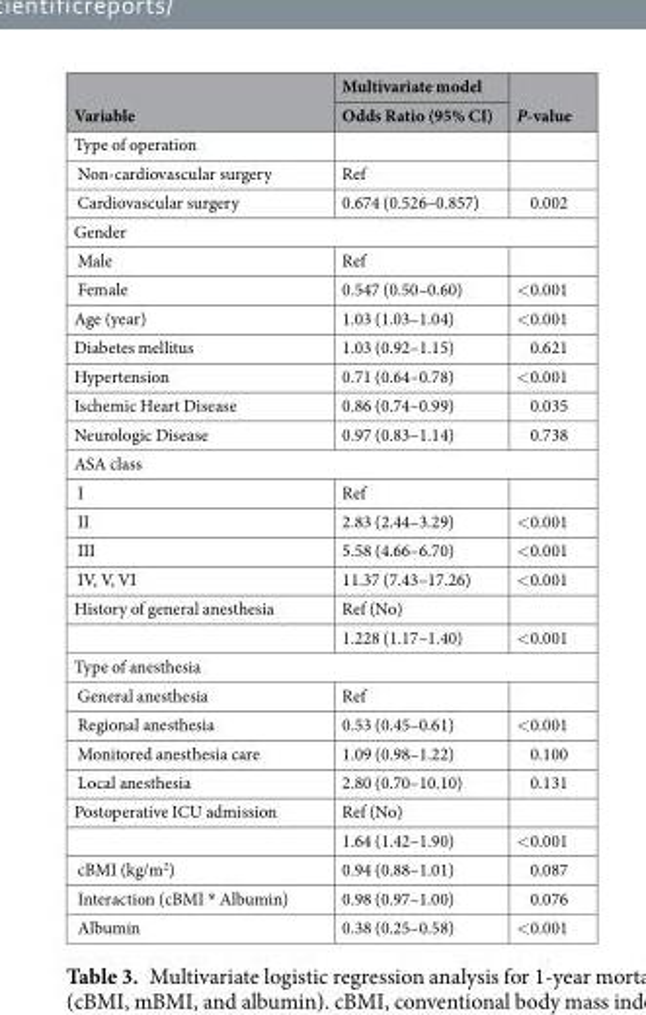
<table><thead><tr><td rowspan="2">Variable</td><td rowspan="2">Multivariate model Odds Ratio (95% CI)</td><td rowspan="2">P-value</td></tr><tr></tr></thead><tbody><tr><td colspan="3">Type of operation</td></tr><tr><td>Non-cardiovascular surgery</td><td>Ref</td><td></td></tr><tr><td>Cardiovascular surgery</td><td>0.674 (0.526–0.857)</td><td>0.002</td></tr><tr><td colspan="3">Gender</td></tr><tr><td>Male</td><td>Ref</td><td></td></tr><tr><td>Female</td><td>0.547 (0.50–0.60)</td><td>&lt;0.001</td></tr><tr><td>Age (year)</td><td>1.03 (1.03–1.04)</td><td>&lt;0.001</td></tr><tr><td>Diabetes mellitus</td><td>1.03 (0.92–1.15)</td><td>0.621</td></tr><tr><td>Hypertension</td><td>0.71 (0.64–0.78)</td><td>&lt;0.001</td></tr><tr><td>Ischemic Heart Disease</td><td>0.86 (0.74–0.99)</td><td>0.035</td></tr><tr><td>Neurologic Disease</td><td>0.97 (0.83–1.14)</td><td>0.738</td></tr><tr><td colspan="3">ASA class</td></tr><tr><td>I</td><td>Ref</td><td></td></tr><tr><td>II</td><td>2.83 (2.44–3.29)</td><td>&lt;0.001</td></tr><tr><td>III</td><td>5.58 (4.66–6.70)</td><td>&lt;0.001</td></tr><tr><td>IV, V, VI</td><td>11.37 (7.43–17.26)</td><td>&lt;0.001</td></tr><tr><td rowspan="2">History of general anesthesia</td><td>Ref (No)</td><td></td></tr><tr><td>1.228 (1.17–1.40)</td><td>&lt;0.001</td></tr><tr><td colspan="3">Type of anesthesia</td></tr><tr><td>General anesthesia</td><td>Ref</td><td></td></tr><tr><td>Regional anesthesia</td><td>0.53 (0.45–0.61)</td><td>&lt;0.001</td></tr><tr><td>Monitored anesthesia care</td><td>1.09 (0.98–1.22)</td><td>0.100</td></tr><tr><td>Local anesthesia</td><td>2.80 (0.70–10.10)</td><td>0.131</td></tr><tr><td rowspan="2">Postoperative ICU admission</td><td>Ref (No)</td><td></td></tr><tr><td>1.64 (1.42–1.90)</td><td>&lt;0.001</td></tr><tr><td>cBMI (kg/m<sup>2</sup>)</td><td>0.94 (0.88–1.01)</td><td>0.087</td></tr><tr><td>Interaction (cBMI * Albumin)</td><td>0.98 (0.97–1.00)</td><td>0.076</td></tr><tr><td>Albumin</td><td>0.38 (0.25–0.58)</td><td>&lt;0.001</td></tr></tbody></table>